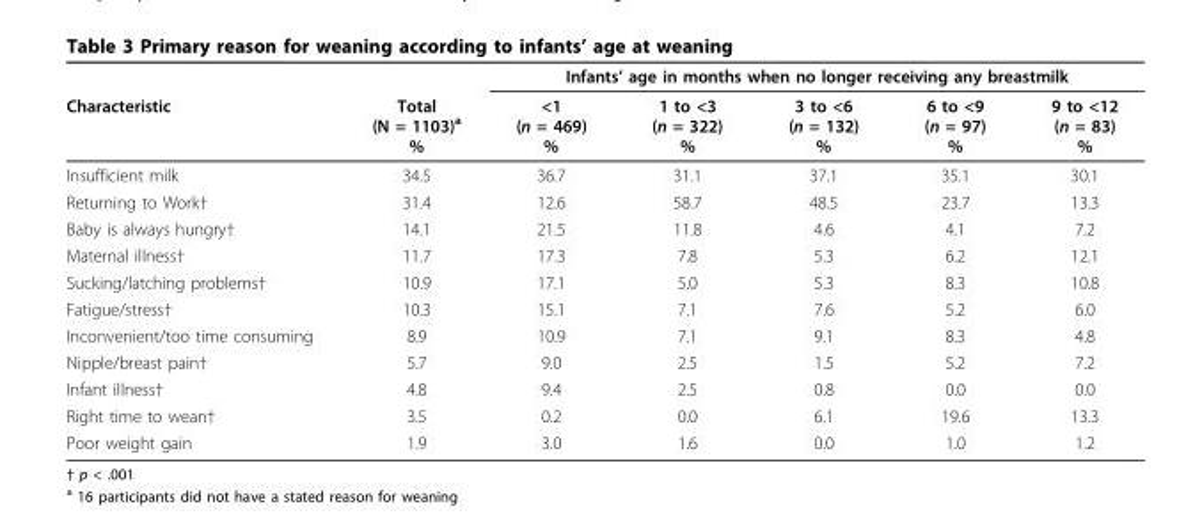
<table><thead><tr><td rowspan="2">Characteristic</td><td rowspan="2">Total (N = 1103)<sup>a</sup> %</td><td colspan="5">Infants’ age in months when no longer receiving any breastmilk</td></tr><tr><td>&lt;1 (n = 469) %</td><td>1 to &lt;3 (n = 322) %</td><td>3 to &lt;6 (n = 132) %</td><td>6 to &lt;9 (n = 97) %</td><td>9 to &lt;12 (n = 83) %</td></tr></thead><tbody><tr><td>Insufficient milk</td><td>34.5</td><td>36.7</td><td>31.1</td><td>37.1</td><td>35.1</td><td>30.1</td></tr><tr><td>Returning to Work†</td><td>31.4</td><td>12.6</td><td>58.7</td><td>48.5</td><td>23.7</td><td>13.3</td></tr><tr><td>Baby is always hungry†</td><td>14.1</td><td>21.5</td><td>11.8</td><td>4.6</td><td>4.1</td><td>7.2</td></tr><tr><td>Maternal illness†</td><td>11.7</td><td>17.3</td><td>7.8</td><td>5.3</td><td>6.2</td><td>12.1</td></tr><tr><td>Sucking/latching problems†</td><td>10.9</td><td>17.1</td><td>5.0</td><td>5.3</td><td>8.3</td><td>10.8</td></tr><tr><td>Fatigue/stress†</td><td>10.3</td><td>15.1</td><td>7.1</td><td>7.6</td><td>5.2</td><td>6.0</td></tr><tr><td>Inconvenient/too time consuming</td><td>8.9</td><td>10.9</td><td>7.1</td><td>9.1</td><td>8.3</td><td>4.8</td></tr><tr><td>Nipple/breast pain†</td><td>5.7</td><td>9.0</td><td>2.5</td><td>1.5</td><td>5.2</td><td>7.2</td></tr><tr><td>Infant illness†</td><td>4.8</td><td>9.4</td><td>2.5</td><td>0.8</td><td>0.0</td><td>0.0</td></tr><tr><td>Right time to wean†</td><td>3.5</td><td>0.2</td><td>0.0</td><td>6.1</td><td>19.6</td><td>13.3</td></tr><tr><td>Poor weight gain</td><td>1.9</td><td>3.0</td><td>1.6</td><td>0.0</td><td>1.0</td><td>1.2</td></tr></tbody></table>